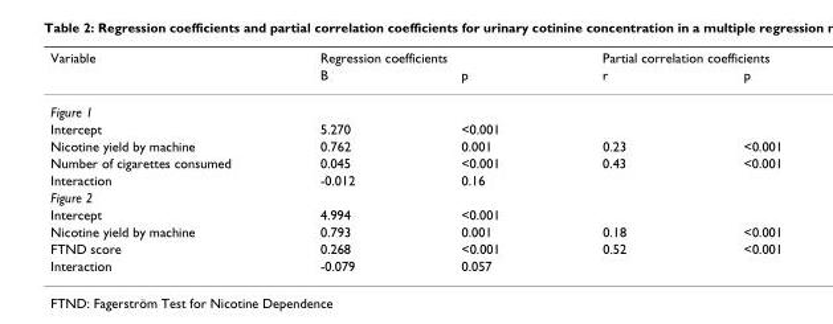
<table><thead><tr><td rowspan="2">Variable</td><td colspan="2">Regression coefficients</td><td colspan="2">Partial correlation coefficients</td></tr><tr><td>B</td><td>p</td><td>r</td><td>p</td></tr></thead><tbody><tr><td colspan="5">Figure 1</td></tr><tr><td>Intercept</td><td>5.270</td><td>&lt;0.001</td><td></td><td></td></tr><tr><td>Nicotine yield by machine</td><td>0.762</td><td>0.001</td><td>0.23</td><td>&lt;0.001</td></tr><tr><td>Number of cigarettes consumed</td><td>0.045</td><td>&lt;0.001</td><td>0.43</td><td>&lt;0.001</td></tr><tr><td>Interaction</td><td>-0.012</td><td>0.16</td><td></td><td></td></tr><tr><td colspan="5">Figure 2</td></tr><tr><td>Intercept</td><td>4.994</td><td>&lt;0.001</td><td></td><td></td></tr><tr><td>Nicotine yield by machine</td><td>0.793</td><td>0.001</td><td>0.18</td><td>&lt;0.001</td></tr><tr><td>FTND score</td><td>0.268</td><td>&lt;0.001</td><td>0.52</td><td>&lt;0.001</td></tr><tr><td>Interaction</td><td>-0.079</td><td>0.057</td><td></td><td></td></tr></tbody></table>